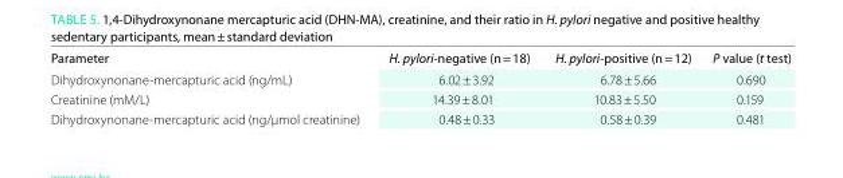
<table><thead><tr><td>Parameter</td><td>H. pylori-negative (n = 18)</td><td>H. pylori-positive (n = 12)</td><td>P value (t test)</td></tr></thead><tbody><tr><td>Dihydroxynonane-mercapturic acid (ng/mL)</td><td>6.02 ± 3.92</td><td>6.78 ± 5.66</td><td>0.690</td></tr><tr><td>Creatinine (mM/L)</td><td>14.39 ± 8.01</td><td>10.83 ± 5.50</td><td>0.159</td></tr><tr><td>Dihydroxynonane-mercapturic acid (ng/µmol creatinine)</td><td>0.48 ± 0.33</td><td>0.58 ± 0.39</td><td>0.481</td></tr></tbody></table>